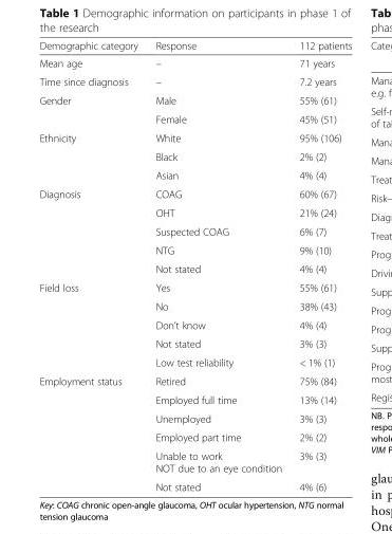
<table><thead><tr><td>Demographic category</td><td>Response</td><td>112 patients</td></tr></thead><tbody><tr><td>Mean age</td><td>–</td><td>71 years</td></tr><tr><td>Time since diagnosis</td><td>–</td><td>7.2 years</td></tr><tr><td rowspan="2">Gender</td><td>Male</td><td>55% (61)</td></tr><tr><td>Female</td><td>45% (51)</td></tr><tr><td rowspan="3">Ethnicity</td><td>White</td><td>95% (106)</td></tr><tr><td>Black</td><td>2% (2)</td></tr><tr><td>Asian</td><td>4% (4)</td></tr><tr><td rowspan="5">Diagnosis</td><td>COAG</td><td>60% (67)</td></tr><tr><td>OHT</td><td>21% (24)</td></tr><tr><td>Suspected COAG</td><td>6% (7)</td></tr><tr><td>NTG</td><td>9% (10)</td></tr><tr><td>Not stated</td><td>4% (4)</td></tr><tr><td rowspan="5">Field loss</td><td>Yes</td><td>55% (61)</td></tr><tr><td>No</td><td>38% (43)</td></tr><tr><td>Don’t know</td><td>4% (4)</td></tr><tr><td>Not stated</td><td>3% (3)</td></tr><tr><td>Low test reliability</td><td>&lt; 1% (1)</td></tr><tr><td rowspan="6">Employment status</td><td>Retired</td><td>75% (84)</td></tr><tr><td>Employed full time</td><td>13% (14)</td></tr><tr><td>Unemployed</td><td>3% (3)</td></tr><tr><td>Employed part time</td><td>2% (2)</td></tr><tr><td>Unable to work NOT due to an eye condition</td><td>3% (3)</td></tr><tr><td>Not stated</td><td>4% (6)</td></tr></tbody></table>